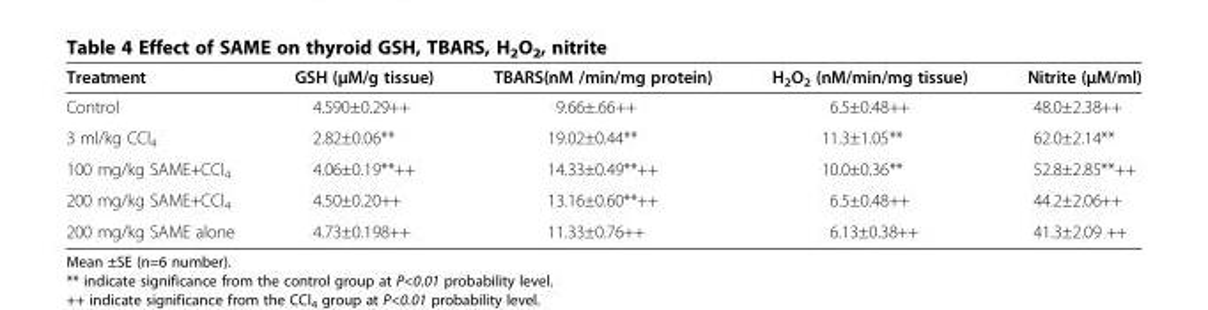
<table><thead><tr><td>Treatment</td><td>GSH (μM/g tissue)</td><td>TBARS(nM /min/mg protein)</td><td>H<sub>2</sub>O<sub>2</sub> (nM/min/mg tissue)</td><td>Nitrite (μM/ml)</td></tr></thead><tbody><tr><td>Control</td><td>4.590±0.29++</td><td>9.66±.66++</td><td>6.5±0.48++</td><td>48.0±2.38++</td></tr><tr><td>3 ml/kg CCl<sub>4</sub></td><td>2.82±0.06**</td><td>19.02±0.44**</td><td>11.3±1.05**</td><td>62.0±2.14**</td></tr><tr><td>100 mg/kg SAME+CCl<sub>4</sub></td><td>4.06±0.19**++</td><td>14.33±0.49**++</td><td>10.0±0.36**</td><td>52.8±2.85**++</td></tr><tr><td>200 mg/kg SAME+CCl<sub>4</sub></td><td>4.50±0.20++</td><td>13.16±0.60**++</td><td>6.5±0.48++</td><td>44.2±2.06++</td></tr><tr><td>200 mg/kg SAME alone</td><td>4.73±0.198++</td><td>11.33±0.76++</td><td>6.13±0.38++</td><td>41.3±2.09 ++</td></tr></tbody></table>